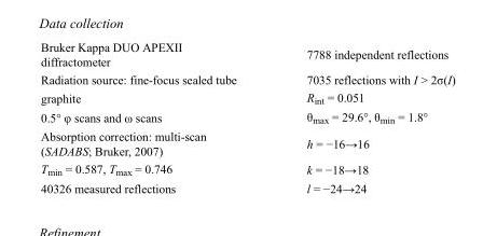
<table><tbody><tr><td>Bruker Kappa DUO APEXII diffractometer</td><td>7788 independent reflections</td></tr><tr><td>Radiation source: fine-focus sealed tube</td><td>7035 reflections with I &gt; 2σ(I)</td></tr><tr><td>graphite</td><td>R<sub>int</sub> = 0.051</td></tr><tr><td>0.5° φ scans and ω scans</td><td>θ<sub>max</sub> = 29.6°, θ<sub>min</sub> = 1.8°</td></tr><tr><td>Absorption correction: multi-scan (SADABS; Bruker, 2007)</td><td>h = −16→16</td></tr><tr><td>T<sub>min</sub> = 0.587, T<sub>max</sub> = 0.746</td><td>k = −18→18</td></tr><tr><td>40326 measured reflections</td><td>l = −24→24</td></tr></tbody></table>